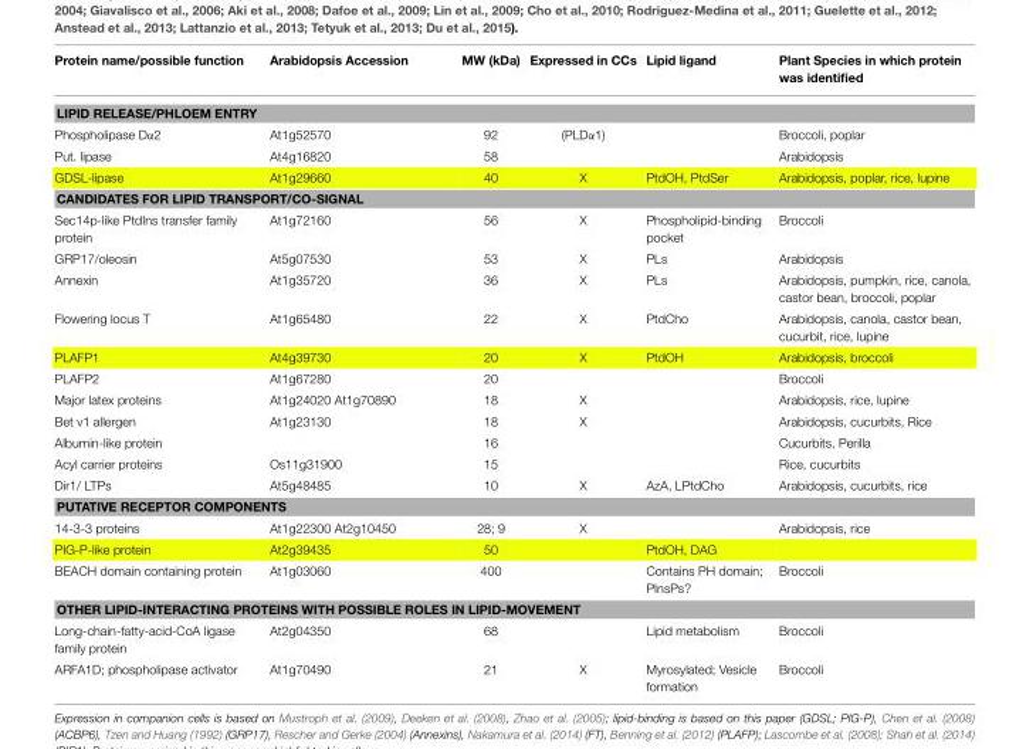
<table><thead><tr><td>Protein name/possible function</td><td>Arabidopsis Accession</td><td>MW (kDa)</td><td>Expressed in CCs</td><td>Lipid ligand</td><td>Plant Species in which protein was identified</td></tr></thead><tbody><tr><td colspan="6">LIPID RELEASE/PHLOEM ENTRY</td></tr><tr><td>Phospholipase Dα2</td><td>At1g52570</td><td>92</td><td>(PLDα1)</td><td></td><td>Broccoli, poplar</td></tr><tr><td>Put. lipase</td><td>At4g16820</td><td>58</td><td></td><td></td><td>Arabidopsis</td></tr><tr><td>GDSL-lipase</td><td>At1g29660</td><td>40</td><td>X</td><td>PtdOH, PtdSer</td><td>Arabidopsis, poplar, rice, lupine</td></tr><tr><td colspan="6">CANDIDATES FOR LIPID TRANSPORT/CO-SIGNAL</td></tr><tr><td>Sec14p-like PtdIns transfer family protein</td><td>At1g72160</td><td>56</td><td>X</td><td>Phospholipid-binding pocket</td><td>Broccoli</td></tr><tr><td>GRP17/oleosin</td><td>At5g07530</td><td>53</td><td>X</td><td>PLs</td><td>Arabidopsis</td></tr><tr><td>Annexin</td><td>At1g35720</td><td>36</td><td>X</td><td>PLs</td><td>Arabidopsis, pumpkin, rice, canola, castor bean, broccoli, poplar</td></tr><tr><td>Flowering locus T</td><td>At1g65480</td><td>22</td><td>X</td><td>PtdCho</td><td>Arabidopsis, canola, castor bean, cucurbit, rice, lupine</td></tr><tr><td>PLAFP1</td><td>At4g39730</td><td>20</td><td>X</td><td>PtdOH</td><td>Arabidopsis, broccoli</td></tr><tr><td>PLAFP2</td><td>At1g67280</td><td>20</td><td></td><td></td><td>Broccoli</td></tr><tr><td>Major latex proteins</td><td>At1g24020 At1g70890</td><td>18</td><td>X</td><td></td><td>Arabidopsis, rice, lupine</td></tr><tr><td>Bet v1 allergen</td><td>At1g23130</td><td>18</td><td>X</td><td></td><td>Arabidopsis, cucurbits, Rice</td></tr><tr><td>Albumin-like protein</td><td></td><td>16</td><td></td><td></td><td>Cucurbits, Perilla</td></tr><tr><td>Acyl carrier proteins</td><td>Os11g31900</td><td>15</td><td></td><td></td><td>Rice, cucurbits</td></tr><tr><td>Dir1/ LTPs</td><td>At5g48485</td><td>10</td><td>X</td><td>AzA, LPtdCho</td><td>Arabidopsis, cucurbits, rice</td></tr><tr><td colspan="6">PUTATIVE RECEPTOR COMPONENTS</td></tr><tr><td>14-3-3 proteins</td><td>At1g22300 At2g10450</td><td>28; 9</td><td>X</td><td></td><td>Arabidopsis, rice</td></tr><tr><td>PIG-P-like protein</td><td>At2g39435</td><td>50</td><td></td><td>PtdOH, DAG</td><td></td></tr><tr><td>BEACH domain containing protein</td><td>At1g03060</td><td>400</td><td></td><td>Contains PH domain; PInsPs?</td><td>Broccoli</td></tr><tr><td colspan="6">OTHER LIPID-INTERACTING PROTEINS WITH POSSIBLE ROLES IN LIPID-MOVEMENT</td></tr><tr><td>Long-chain-fatty-acid-CoA ligase family protein</td><td>At2g04350</td><td>68</td><td></td><td>Lipid metabolism</td><td>Broccoli</td></tr><tr><td>ARFA1D; phospholipase activator</td><td>At1g70490</td><td>21</td><td>X</td><td>Myrosylated; Vesicle formation</td><td>Broccoli</td></tr></tbody></table>